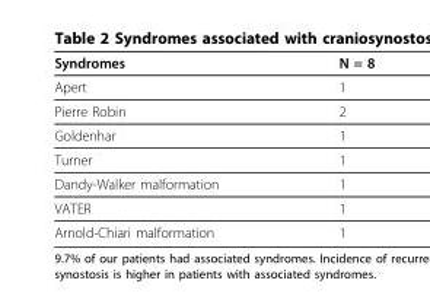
<table><thead><tr><td>Syndromes</td><td>N = 8</td></tr></thead><tbody><tr><td>Apert</td><td>1</td></tr><tr><td>Pierre Robin</td><td>2</td></tr><tr><td>Goldenhar</td><td>1</td></tr><tr><td>Turner</td><td>1</td></tr><tr><td>Dandy-Walker malformation</td><td>1</td></tr><tr><td>VATER</td><td>1</td></tr><tr><td>Arnold-Chiari malformation</td><td>1</td></tr></tbody></table>